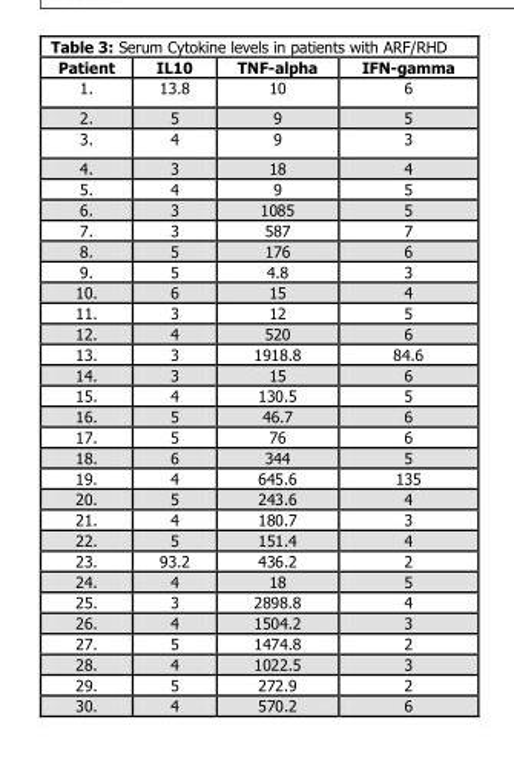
<table><thead><tr><td>Patient</td><td>IL10</td><td>TNF-alpha</td><td>IFN-gamma</td></tr></thead><tbody><tr><td>1.</td><td>13.8</td><td>10</td><td>6</td></tr><tr><td>2.</td><td>5</td><td>9</td><td>5</td></tr><tr><td>3.</td><td>4</td><td>9</td><td>3</td></tr><tr><td>4.</td><td>3</td><td>18</td><td>4</td></tr><tr><td>5.</td><td>4</td><td>9</td><td>5</td></tr><tr><td>6.</td><td>3</td><td>1085</td><td>5</td></tr><tr><td>7.</td><td>3</td><td>587</td><td>7</td></tr><tr><td>8.</td><td>5</td><td>176</td><td>6</td></tr><tr><td>9.</td><td>5</td><td>4.8</td><td>3</td></tr><tr><td>10.</td><td>6</td><td>15</td><td>4</td></tr><tr><td>11.</td><td>3</td><td>12</td><td>5</td></tr><tr><td>12.</td><td>4</td><td>520</td><td>6</td></tr><tr><td>13.</td><td>3</td><td>1918.8</td><td>84.6</td></tr><tr><td>14.</td><td>3</td><td>15</td><td>6</td></tr><tr><td>15.</td><td>4</td><td>130.5</td><td>5</td></tr><tr><td>16.</td><td>5</td><td>46.7</td><td>6</td></tr><tr><td>17.</td><td>5</td><td>76</td><td>6</td></tr><tr><td>18.</td><td>6</td><td>344</td><td>5</td></tr><tr><td>19.</td><td>4</td><td>645.6</td><td>135</td></tr><tr><td>20.</td><td>5</td><td>243.6</td><td>4</td></tr><tr><td>21.</td><td>4</td><td>180.7</td><td>3</td></tr><tr><td>22.</td><td>5</td><td>151.4</td><td>4</td></tr><tr><td>23.</td><td>93.2</td><td>436.2</td><td>2</td></tr><tr><td>24.</td><td>4</td><td>18</td><td>5</td></tr><tr><td>25.</td><td>3</td><td>2898.8</td><td>4</td></tr><tr><td>26.</td><td>4</td><td>1504.2</td><td>3</td></tr><tr><td>27.</td><td>5</td><td>1474.8</td><td>2</td></tr><tr><td>28.</td><td>4</td><td>1022.5</td><td>3</td></tr><tr><td>29.</td><td>5</td><td>272.9</td><td>2</td></tr><tr><td>30.</td><td>4</td><td>570.2</td><td>6</td></tr></tbody></table>